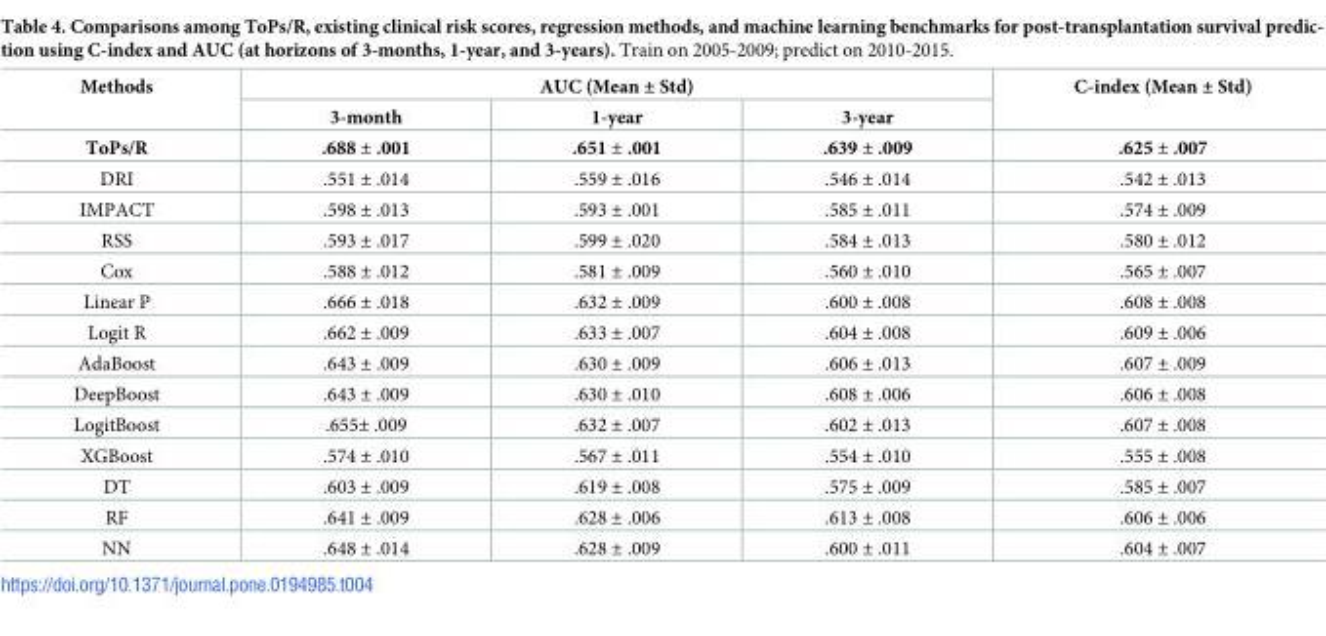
<table><thead><tr><td rowspan="2">Methods</td><td colspan="3">AUC (Mean ± Std)</td><td rowspan="2">C-index (Mean ± Std)</td></tr><tr><td>3-month</td><td>1-year</td><td>3-year</td></tr></thead><tbody><tr><td>ToPs/R</td><td>.688 ± .001</td><td>.651 ± .001</td><td>.639 ± .009</td><td>.625 ± .007</td></tr><tr><td>DRI</td><td>.551 ± .014</td><td>.559 ± .016</td><td>.546 ± .014</td><td>.542 ± .013</td></tr><tr><td>IMPACT</td><td>.598 ± .013</td><td>.593 ± .001</td><td>.585 ± .011</td><td>.574 ± .009</td></tr><tr><td>RSS</td><td>.593 ± .017</td><td>.599 ± .020</td><td>.584 ± .013</td><td>.580 ± .012</td></tr><tr><td>Cox</td><td>.588 ± .012</td><td>.581 ± .009</td><td>.560 ± .010</td><td>.565 ± .007</td></tr><tr><td>Linear P</td><td>.666 ± .018</td><td>.632 ± .009</td><td>.600 ± .008</td><td>.608 ± .008</td></tr><tr><td>Logit R</td><td>.662 ± .009</td><td>.633 ± .007</td><td>.604 ± .008</td><td>.609 ± .006</td></tr><tr><td>AdaBoost</td><td>.643 ± .009</td><td>.630 ± .009</td><td>.606 ± .013</td><td>.607 ± .009</td></tr><tr><td>DeepBoost</td><td>.643 ± .009</td><td>.630 ± .010</td><td>.608 ± .006</td><td>.606 ± .008</td></tr><tr><td>LogitBoost</td><td>.655± .009</td><td>.632 ± .007</td><td>.602 ± .013</td><td>.607 ± .008</td></tr><tr><td>XGBoost</td><td>.574 ± .010</td><td>.567 ± .011</td><td>.554 ± .010</td><td>.555 ± .008</td></tr><tr><td>DT</td><td>.603 ± .009</td><td>.619 ± .008</td><td>.575 ± .009</td><td>.585 ± .007</td></tr><tr><td>RF</td><td>.641 ± .009</td><td>.628 ± .006</td><td>.613 ± .008</td><td>.606 ± .006</td></tr><tr><td>NN</td><td>.648 ± .014</td><td>.628 ± .009</td><td>.600 ± .011</td><td>.604 ± .007</td></tr></tbody></table>